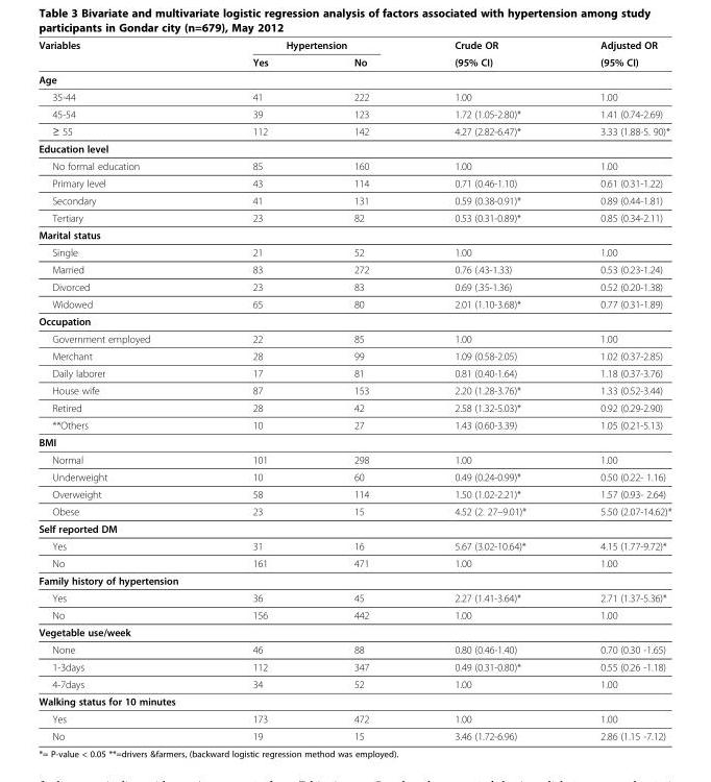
<table><thead><tr><td rowspan="2">Variables</td><td colspan="2">Hypertension</td><td rowspan="2">Crude OR (95% CI)</td><td rowspan="2">Adjusted OR (95% CI)</td></tr><tr><td>Yes</td><td>No</td></tr></thead><tbody><tr><td colspan="5">Age</td></tr><tr><td>35-44</td><td>41</td><td>222</td><td>1.00</td><td>1.00</td></tr><tr><td>45-54</td><td>39</td><td>123</td><td>1.72 (1.05-2.80)*</td><td>1.41 (0.74-2.69)</td></tr><tr><td>≥ 55</td><td>112</td><td>142</td><td>4.27 (2.82-6.47)*</td><td>3.33 (1.88-5. 90)*</td></tr><tr><td colspan="5">Education level</td></tr><tr><td>No formal education</td><td>85</td><td>160</td><td>1.00</td><td>1.00</td></tr><tr><td>Primary level</td><td>43</td><td>114</td><td>0.71 (0.46-1.10)</td><td>0.61 (0.31-1.22)</td></tr><tr><td>Secondary</td><td>41</td><td>131</td><td>0.59 (0.38-0.91)*</td><td>0.89 (0.44-1.81)</td></tr><tr><td>Tertiary</td><td>23</td><td>82</td><td>0.53 (0.31-0.89)*</td><td>0.85 (0.34-2.11)</td></tr><tr><td colspan="5">Marital status</td></tr><tr><td>Single</td><td>21</td><td>52</td><td>1.00</td><td>1.00</td></tr><tr><td>Married</td><td>83</td><td>272</td><td>0.76 (.43-1.33)</td><td>0.53 (0.23-1.24)</td></tr><tr><td>Divorced</td><td>23</td><td>83</td><td>0.69 (.35-1.36)</td><td>0.52 (0.20-1.38)</td></tr><tr><td>Widowed</td><td>65</td><td>80</td><td>2.01 (1.10-3.68)*</td><td>0.77 (0.31-1.89)</td></tr><tr><td colspan="5">Occupation</td></tr><tr><td>Government employed</td><td>22</td><td>85</td><td>1.00</td><td>1.00</td></tr><tr><td>Merchant</td><td>28</td><td>99</td><td>1.09 (0.58-2.05)</td><td>1.02 (0.37-2.85)</td></tr><tr><td>Daily laborer</td><td>17</td><td>81</td><td>0.81 (0.40-1.64)</td><td>1.18 (0.37-3.76)</td></tr><tr><td>House wife</td><td>87</td><td>153</td><td>2.20 (1.28-3.76)*</td><td>1.33 (0.52-3.44)</td></tr><tr><td>Retired</td><td>28</td><td>42</td><td>2.58 (1.32-5.03)*</td><td>0.92 (0.29-2.90)</td></tr><tr><td>**Others</td><td>10</td><td>27</td><td>1.43 (0.60-3.39)</td><td>1.05 (0.21-5.13)</td></tr><tr><td colspan="5">BMI</td></tr><tr><td>Normal</td><td>101</td><td>298</td><td>1.00</td><td>1.00</td></tr><tr><td>Underweight</td><td>10</td><td>60</td><td>0.49 (0.24-0.99)*</td><td>0.50 (0.22- 1.16)</td></tr><tr><td>Overweight</td><td>58</td><td>114</td><td>1.50 (1.02-2.21)*</td><td>1.57 (0.93- 2.64)</td></tr><tr><td>Obese</td><td>23</td><td>15</td><td>4.52 (2. 27–9.01)*</td><td>5.50 (2.07-14.62)*</td></tr><tr><td colspan="5">Self reported DM</td></tr><tr><td>Yes</td><td>31</td><td>16</td><td>5.67 (3.02-10.64)*</td><td>4.15 (1.77-9.72)*</td></tr><tr><td>No</td><td>161</td><td>471</td><td>1.00</td><td>1.00</td></tr><tr><td colspan="5">Family history of hypertension</td></tr><tr><td>Yes</td><td>36</td><td>45</td><td>2.27 (1.41-3.64)*</td><td>2.71 (1.37-5.36)*</td></tr><tr><td>No</td><td>156</td><td>442</td><td>1.00</td><td>1.00</td></tr><tr><td colspan="5">Vegetable use/week</td></tr><tr><td>None</td><td>46</td><td>88</td><td>0.80 (0.46-1.40)</td><td>0.70 (0.30 -1.65)</td></tr><tr><td>1-3days</td><td>112</td><td>347</td><td>0.49 (0.31-0.80)*</td><td>0.55 (0.26 -1.18)</td></tr><tr><td>4-7days</td><td>34</td><td>52</td><td>1.00</td><td>1.00</td></tr><tr><td colspan="5">Walking status for 10 minutes</td></tr><tr><td>Yes</td><td>173</td><td>472</td><td>1.00</td><td>1.00</td></tr><tr><td>No</td><td>19</td><td>15</td><td>3.46 (1.72-6.96)</td><td>2.86 (1.15 -7.12)</td></tr></tbody></table>